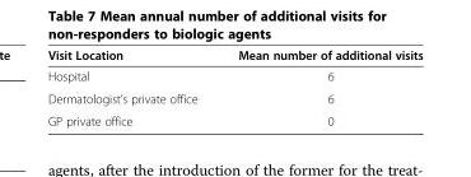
<table><thead><tr><td>Visit Location</td><td>Mean number of additional visits</td></tr></thead><tbody><tr><td>Hospital</td><td>6</td></tr><tr><td>Dermatologist’s private office</td><td>6</td></tr><tr><td>GP private office</td><td>0</td></tr></tbody></table>